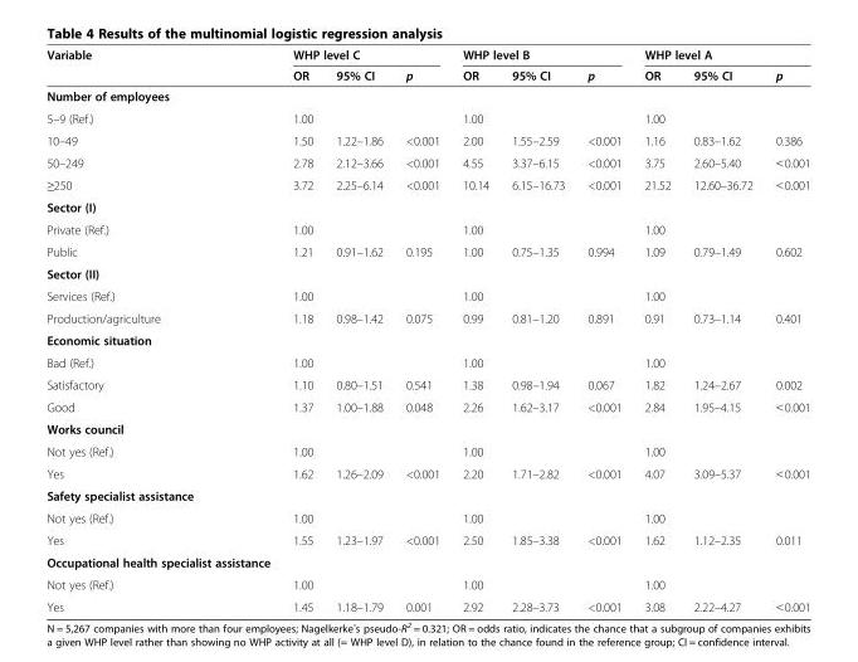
<table><thead><tr><td rowspan="2">Variable</td><td colspan="3">WHP level C</td><td colspan="3">WHP level B</td><td colspan="3">WHP level A</td></tr><tr><td>OR</td><td>95% CI</td><td>p</td><td>OR</td><td>95% CI</td><td>p</td><td>OR</td><td>95% CI</td><td>p</td></tr></thead><tbody><tr><td colspan="10">Number of employees</td></tr><tr><td>5–9 (Ref.)</td><td>1.00</td><td></td><td></td><td>1.00</td><td></td><td></td><td>1.00</td><td></td><td></td></tr><tr><td>10–49</td><td>1.50</td><td>1.22–1.86</td><td>&lt;0.001</td><td>2.00</td><td>1.55–2.59</td><td>&lt;0.001</td><td>1.16</td><td>0.83–1.62</td><td>0.386</td></tr><tr><td>50–249</td><td>2.78</td><td>2.12–3.66</td><td>&lt;0.001</td><td>4.55</td><td>3.37–6.15</td><td>&lt;0.001</td><td>3.75</td><td>2.60–5.40</td><td>˂0.001</td></tr><tr><td>≥250</td><td>3.72</td><td>2.25–6.14</td><td>&lt;0.001</td><td>10.14</td><td>6.15–16.73</td><td>&lt;0.001</td><td>21.52</td><td>12.60–36.72</td><td>˂0.001</td></tr><tr><td colspan="10">Sector (I)</td></tr><tr><td>Private (Ref.)</td><td>1.00</td><td></td><td></td><td>1.00</td><td></td><td></td><td>1.00</td><td></td><td></td></tr><tr><td>Public</td><td>1.21</td><td>0.91–1.62</td><td>0.195</td><td>1.00</td><td>0.75–1.35</td><td>0.994</td><td>1.09</td><td>0.79–1.49</td><td>0.602</td></tr><tr><td colspan="10">Sector (II)</td></tr><tr><td>Services (Ref.)</td><td>1.00</td><td></td><td></td><td>1.00</td><td></td><td></td><td>1.00</td><td></td><td></td></tr><tr><td>Production/agriculture</td><td>1.18</td><td>0.98–1.42</td><td>0.075</td><td>0.99</td><td>0.81–1.20</td><td>0.891</td><td>0.91</td><td>0.73–1.14</td><td>0.401</td></tr><tr><td colspan="10">Economic situation</td></tr><tr><td>Bad (Ref.)</td><td>1.00</td><td></td><td></td><td>1.00</td><td></td><td></td><td>1.00</td><td></td><td></td></tr><tr><td>Satisfactory</td><td>1.10</td><td>0.80–1.51</td><td>0.541</td><td>1.38</td><td>0.98–1.94</td><td>0.067</td><td>1.82</td><td>1.24–2.67</td><td>0.002</td></tr><tr><td>Good</td><td>1.37</td><td>1.00–1.88</td><td>0.048</td><td>2.26</td><td>1.62–3.17</td><td>&lt;0.001</td><td>2.84</td><td>1.95–4.15</td><td>˂0.001</td></tr><tr><td colspan="10">Works council</td></tr><tr><td>Not yes (Ref.)</td><td>1.00</td><td></td><td></td><td>1.00</td><td></td><td></td><td>1.00</td><td></td><td></td></tr><tr><td>Yes</td><td>1.62</td><td>1.26–2.09</td><td>&lt;0.001</td><td>2.20</td><td>1.71–2.82</td><td>&lt;0.001</td><td>4.07</td><td>3.09–5.37</td><td>˂0.001</td></tr><tr><td colspan="10">Safety specialist assistance</td></tr><tr><td>Not yes (Ref.)</td><td>1.00</td><td></td><td></td><td>1.00</td><td></td><td></td><td>1.00</td><td></td><td></td></tr><tr><td>Yes</td><td>1.55</td><td>1.23–1.97</td><td>&lt;0.001</td><td>2.50</td><td>1.85–3.38</td><td>&lt;0.001</td><td>1.62</td><td>1.12–2.35</td><td>0.011</td></tr><tr><td colspan="10">Occupational health specialist assistance</td></tr><tr><td>Not yes (Ref.)</td><td>1.00</td><td></td><td></td><td>1.00</td><td></td><td></td><td>1.00</td><td></td><td></td></tr><tr><td>Yes</td><td>1.45</td><td>1.18–1.79</td><td>0.001</td><td>2.92</td><td>2.28–3.73</td><td>&lt;0.001</td><td>3.08</td><td>2.22–4.27</td><td>˂0.001</td></tr></tbody></table>